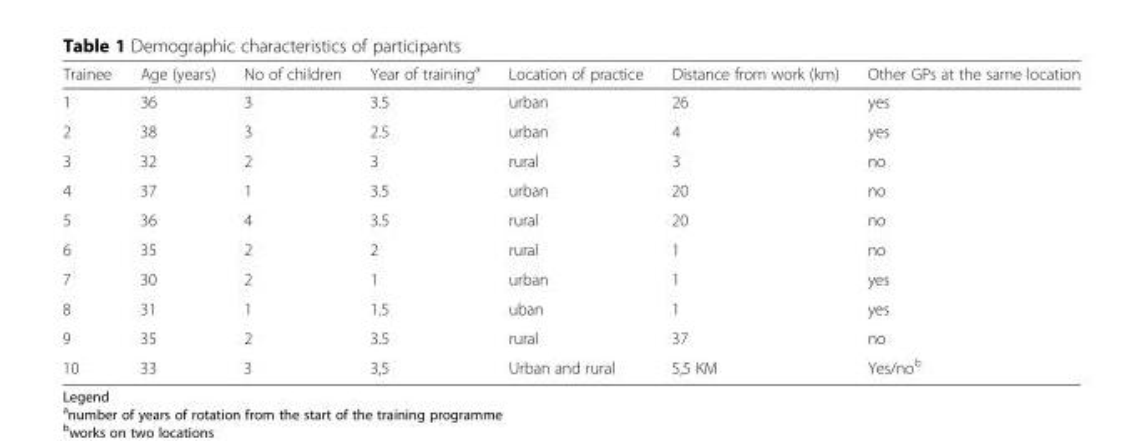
<table><thead><tr><td>Trainee</td><td>Age (years)</td><td>No of children</td><td>Year of training<sup>a</sup></td><td>Location of practice</td><td>Distance from work (km)</td><td>Other GPs at the same location</td></tr></thead><tbody><tr><td>1</td><td>36</td><td>3</td><td>3.5</td><td>urban</td><td>26</td><td>yes</td></tr><tr><td>2</td><td>38</td><td>3</td><td>2.5</td><td>urban</td><td>4</td><td>yes</td></tr><tr><td>3</td><td>32</td><td>2</td><td>3</td><td>rural</td><td>3</td><td>no</td></tr><tr><td>4</td><td>37</td><td>1</td><td>3.5</td><td>urban</td><td>20</td><td>no</td></tr><tr><td>5</td><td>36</td><td>4</td><td>3.5</td><td>rural</td><td>20</td><td>no</td></tr><tr><td>6</td><td>35</td><td>2</td><td>2</td><td>rural</td><td>1</td><td>no</td></tr><tr><td>7</td><td>30</td><td>2</td><td>1</td><td>urban</td><td>1</td><td>yes</td></tr><tr><td>8</td><td>31</td><td>1</td><td>1.5</td><td>uban</td><td>1</td><td>yes</td></tr><tr><td>9</td><td>35</td><td>2</td><td>3.5</td><td>rural</td><td>37</td><td>no</td></tr><tr><td>10</td><td>33</td><td>3</td><td>3,5</td><td>Urban and rural</td><td>5,5 KM</td><td>Yes/no<sup>b</sup></td></tr></tbody></table>